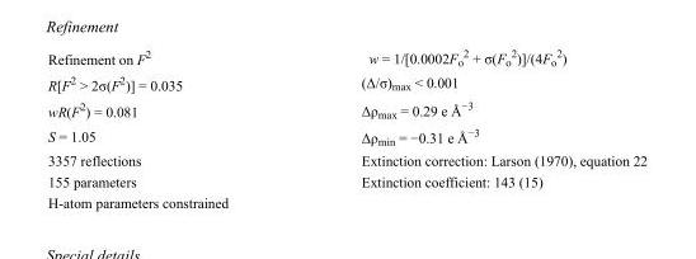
<table><tbody><tr><td>Refinement on F<sup>2</sup></td><td>w = 1/[0.0002F<sub>o</sub> <sup>2</sup> + σ(F<sub>o</sub> <sup>2</sup>)]/(4F<sub>o</sub> <sup>2</sup>)</td></tr><tr><td>R[F<sup>2</sup> &gt; 2σ(F<sup>2</sup>)] = 0.035</td><td>(Δ/σ)<sub>max</sub> &lt; 0.001</td></tr><tr><td>wR(F<sup>2</sup>) = 0.081</td><td>Δρ<sub>max</sub> = 0.29 e Å<sup>−3</sup></td></tr><tr><td>S = 1.05</td><td>Δρ<sub>min</sub> = −0.31 e Å<sup>−3</sup></td></tr><tr><td>3357 reflections</td><td>Extinction correction: Larson (1970), equation 22</td></tr><tr><td>155 parameters</td><td>Extinction coefficient: 143 (15)</td></tr><tr><td>H-atom parameters constrained</td><td></td></tr></tbody></table>